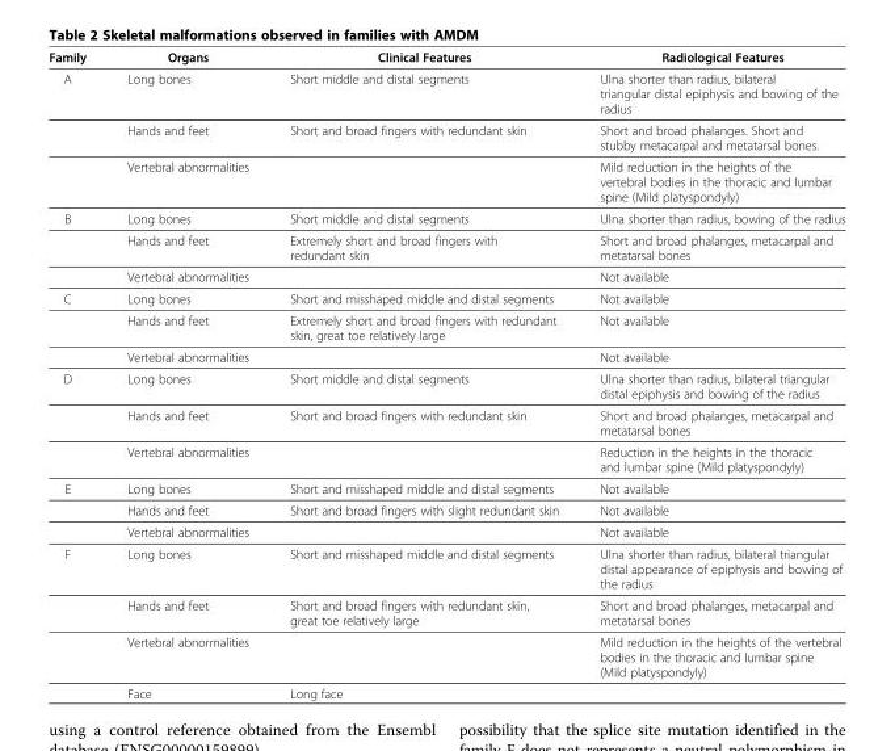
<table><thead><tr><td>Family</td><td>Organs</td><td>Clinical Features</td><td>Radiological Features</td></tr></thead><tbody><tr><td rowspan="3">A</td><td>Long bones</td><td>Short middle and distal segments</td><td>Ulna shorter than radius, bilateral triangular distal epiphysis and bowing of the radius</td></tr><tr><td>Hands and feet</td><td>Short and broad fingers with redundant skin</td><td>Short and broad phalanges. Short and stubby metacarpal and metatarsal bones.</td></tr><tr><td>Vertebral abnormalities</td><td></td><td>Mild reduction in the heights of the vertebral bodies in the thoracic and lumbar spine (Mild platyspondyly)</td></tr><tr><td rowspan="3">B</td><td>Long bones</td><td>Short middle and distal segments</td><td>Ulna shorter than radius, bowing of the radius</td></tr><tr><td>Hands and feet</td><td>Extremely short and broad fingers with redundant skin</td><td>Short and broad phalanges, metacarpal and metatarsal bones</td></tr><tr><td>Vertebral abnormalities</td><td></td><td>Not available</td></tr><tr><td rowspan="3">C</td><td>Long bones</td><td>Short and misshaped middle and distal segments</td><td>Not available</td></tr><tr><td>Hands and feet</td><td>Extremely short and broad fingers with redundant skin, great toe relatively large</td><td>Not available</td></tr><tr><td>Vertebral abnormalities</td><td></td><td>Not available</td></tr><tr><td rowspan="3">D</td><td>Long bones</td><td>Short middle and distal segments</td><td>Ulna shorter than radius, bilateral triangular distal epiphysis and bowing of the radius</td></tr><tr><td>Hands and feet</td><td>Short and broad fingers with redundant skin</td><td>Short and broad phalanges, metacarpal and metatarsal bones</td></tr><tr><td>Vertebral abnormalities</td><td></td><td>Reduction in the heights in the thoracic and lumbar spine (Mild platyspondyly)</td></tr><tr><td rowspan="3">E</td><td>Long bones</td><td>Short and misshaped middle and distal segments</td><td>Not available</td></tr><tr><td>Hands and feet</td><td>Short and broad fingers with slight redundant skin</td><td>Not available</td></tr><tr><td>Vertebral abnormalities</td><td></td><td>Not available</td></tr><tr><td rowspan="4">F</td><td>Long bones</td><td>Short and misshaped middle and distal segments</td><td>Ulna shorter than radius, bilateral triangular distal appearance of epiphysis and bowing of the radius</td></tr><tr><td>Hands and feet</td><td>Short and broad fingers with redundant skin, great toe relatively large</td><td>Short and broad phalanges, metacarpal and metatarsal bones</td></tr><tr><td>Vertebral abnormalities</td><td></td><td>Mild reduction in the heights of the vertebral bodies in the thoracic and lumbar spine (Mild platyspondyly)</td></tr><tr><td>Face</td><td>Long face</td><td></td></tr></tbody></table>